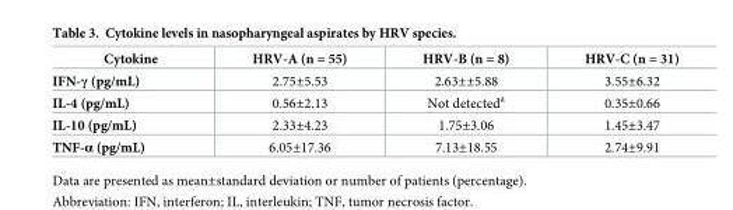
<table><thead><tr><td>Cytokine</td><td>HRV-A (n = 55)</td><td>HRV-B (n = 8)</td><td>HRV-C (n = 31)</td></tr></thead><tbody><tr><td>IFN-γ (pg/mL)</td><td>2.75±5.53</td><td>2.63±±5.88</td><td>3.55±6.32</td></tr><tr><td>IL-4 (pg/mL)</td><td>0.56±2.13</td><td>Not detected<sup>a</sup></td><td>0.35±0.66</td></tr><tr><td>IL-10 (pg/mL)</td><td>2.33±4.23</td><td>1.75±3.06</td><td>1.45±3.47</td></tr><tr><td>TNF-α (pg/mL)</td><td>6.05±17.36</td><td>7.13±18.55</td><td>2.74±9.91</td></tr></tbody></table>